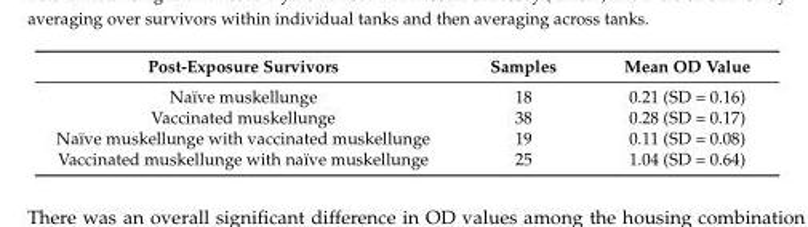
<table><thead><tr><td>Post-Exposure Survivors</td><td>Samples</td><td>Mean OD Value</td></tr></thead><tbody><tr><td>Naïve muskellunge</td><td>18</td><td>0.21 (SD = 0.16)</td></tr><tr><td>Vaccinated muskellunge</td><td>38</td><td>0.28 (SD = 0.17)</td></tr><tr><td>Naïve muskellunge with vaccinated muskellunge</td><td>19</td><td>0.11 (SD = 0.08)</td></tr><tr><td>Vaccinated muskellunge with naïve muskellunge</td><td>25</td><td>1.04 (SD = 0.64)</td></tr></tbody></table>